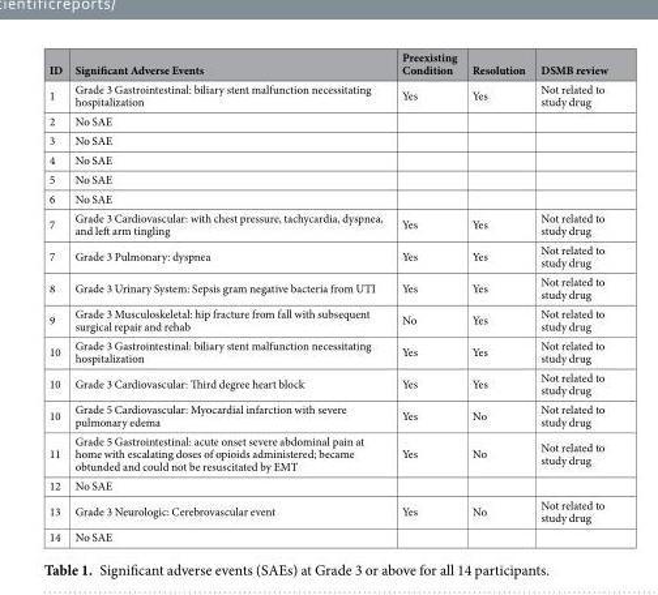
<table><thead><tr><td>ID</td><td>Significant Adverse Events</td><td>Preexisting Condition</td><td>Resolution</td><td>DSMB review</td></tr></thead><tbody><tr><td>1</td><td>Grade 3 Gastrointestinal: biliary stent malfunction necessitating hospitalization</td><td>Yes</td><td>Yes</td><td>Not related to study drug</td></tr><tr><td>2</td><td>No SAE</td><td></td><td></td><td></td></tr><tr><td>3</td><td>No SAE</td><td></td><td></td><td></td></tr><tr><td>4</td><td>No SAE</td><td></td><td></td><td></td></tr><tr><td>5</td><td>No SAE</td><td></td><td></td><td></td></tr><tr><td>6</td><td>No SAE</td><td></td><td></td><td></td></tr><tr><td>7</td><td>Grade 3 Cardiovascular: with chest pressure, tachycardia, dyspnea, and left arm tingling</td><td>Yes</td><td>Yes</td><td>Not related to study drug</td></tr><tr><td>7</td><td>Grade 3 Pulmonary: dyspnea</td><td>Yes</td><td>Yes</td><td>Not related to study drug</td></tr><tr><td>8</td><td>Grade 3 Urinary System: Sepsis gram negative bacteria from UTI</td><td>Yes</td><td>Yes</td><td>Not related to study drug</td></tr><tr><td>9</td><td>Grade 3 Musculoskeletal: hip fracture from fall with subsequent surgical repair and rehab</td><td>No</td><td>Yes</td><td>Not related to study drug</td></tr><tr><td>10</td><td>Grade 3 Gastrointestinal: biliary stent malfunction necessitating hospitalization</td><td>Yes</td><td>Yes</td><td>Not related to study drug</td></tr><tr><td>10</td><td>Grade 3 Cardiovascular: Third degree heart block</td><td>Yes</td><td>Yes</td><td>Not related to study drug</td></tr><tr><td>10</td><td>Grade 5 Cardiovascular: Myocardial infarction with severe pulmonary edema</td><td>Yes</td><td>No</td><td>Not related to study drug</td></tr><tr><td>11</td><td>Grade 5 Gastrointestinal: acute onset severe abdominal pain at home with escalating doses of opioids administered; became obtunded and could not be resuscitated by EMT</td><td>Yes</td><td>No</td><td>Not related to study drug</td></tr><tr><td>12</td><td>No SAE</td><td></td><td></td><td></td></tr><tr><td>13</td><td>Grade 3 Neurologic: Cerebrovascular event</td><td>Yes</td><td>No</td><td>Not related to study drug</td></tr><tr><td>14</td><td>No SAE</td><td></td><td></td><td></td></tr></tbody></table>